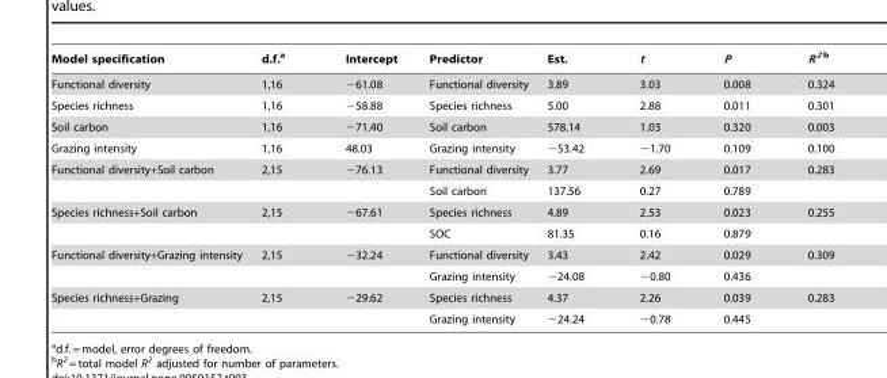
<table><thead><tr><td>Model specification</td><td>d.f.<sup>a</sup></td><td>Intercept</td><td>Predictor</td><td>Est.</td><td>t</td><td>P</td><td>R <sup>2</sup> b</td></tr></thead><tbody><tr><td>Functional diversity</td><td>1,16</td><td>−61.08</td><td>Functional diversity</td><td>3.89</td><td>3.03</td><td>0.008</td><td>0.324</td></tr><tr><td>Species richness</td><td>1,16</td><td>−58.88</td><td>Species richness</td><td>5.00</td><td>2.88</td><td>0.011</td><td>0.301</td></tr><tr><td>Soil carbon</td><td>1,16</td><td>−71.40</td><td>Soil carbon</td><td>578.14</td><td>1.03</td><td>0.320</td><td>0.003</td></tr><tr><td>Grazing intensity</td><td>1,16</td><td>48.03</td><td>Grazing intensity</td><td>−53.42</td><td>−1.70</td><td>0.109</td><td>0.100</td></tr><tr><td rowspan="2">Functional diversity+Soil carbon</td><td>2,15</td><td>−76.13</td><td>Functional diversity</td><td>3.77</td><td>2.69</td><td>0.017</td><td>0.283</td></tr><tr><td></td><td></td><td>Soil carbon</td><td>137.56</td><td>0.27</td><td>0.789</td><td></td></tr><tr><td rowspan="2">Species richness+Soil carbon</td><td>2,15</td><td>−67.61</td><td>Species richness</td><td>4.89</td><td>2.53</td><td>0.023</td><td>0.255</td></tr><tr><td></td><td></td><td>SOC</td><td>81.35</td><td>0.16</td><td>0.879</td><td></td></tr><tr><td rowspan="2">Functional diversity+Grazing intensity</td><td>2,15</td><td>−32.24</td><td>Functional diversity</td><td>3.43</td><td>2.42</td><td>0.029</td><td>0.309</td></tr><tr><td></td><td></td><td>Grazing intensity</td><td>−24.08</td><td>−0.80</td><td>0.436</td><td></td></tr><tr><td rowspan="2">Species richness+Grazing</td><td>2,15</td><td>−29.62</td><td>Species richness</td><td>4.37</td><td>2.26</td><td>0.039</td><td>0.283</td></tr><tr><td></td><td></td><td>Grazing intensity</td><td>−24.24</td><td>−0.78</td><td>0.445</td><td></td></tr></tbody></table>